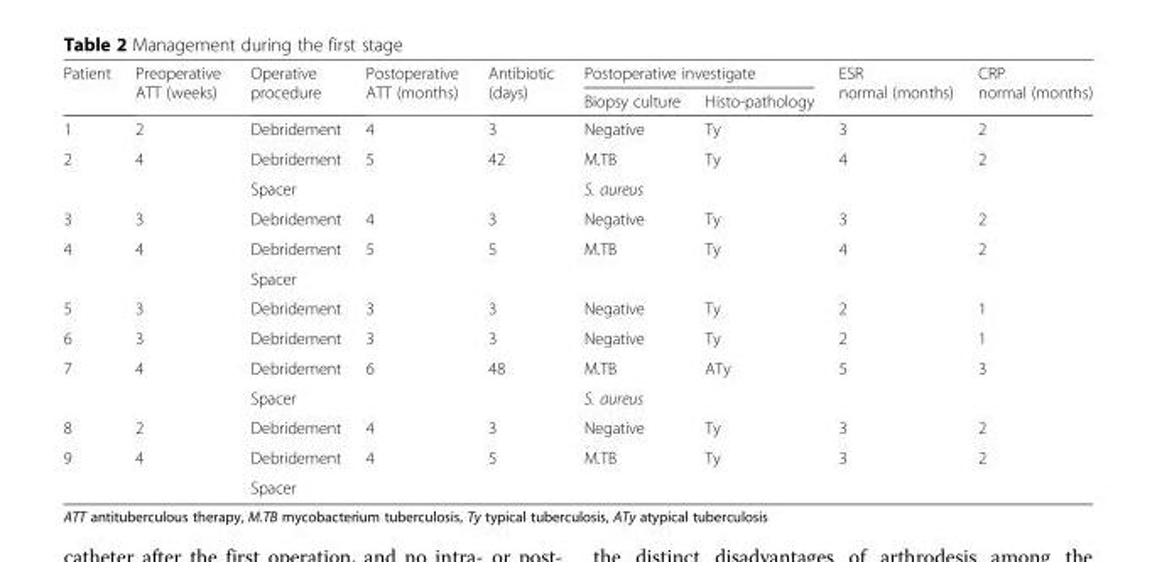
<table><thead><tr><td rowspan="2">Patient</td><td rowspan="2">Preoperative ATT (weeks)</td><td rowspan="2">Operative procedure</td><td rowspan="2">Postoperative ATT (months)</td><td rowspan="2">Antibiotic (days)</td><td colspan="2">Postoperative investigate</td><td rowspan="2">ESR normal (months)</td><td rowspan="2">CRP normal (months)</td></tr><tr><td>Biopsy culture</td><td>Histo-pathology</td></tr></thead><tbody><tr><td>1</td><td>2</td><td>Debridement</td><td>4</td><td>3</td><td>Negative</td><td>Ty</td><td>3</td><td>2</td></tr><tr><td rowspan="2">2</td><td rowspan="2">4</td><td>Debridement</td><td rowspan="2">5</td><td rowspan="2">42</td><td>M.TB</td><td rowspan="2">Ty</td><td rowspan="2">4</td><td rowspan="2">2</td></tr><tr><td>Spacer</td><td>S. aureus</td></tr><tr><td>3</td><td>3</td><td>Debridement</td><td>4</td><td>3</td><td>Negative</td><td>Ty</td><td>3</td><td>2</td></tr><tr><td rowspan="2">4</td><td rowspan="2">4</td><td>Debridement</td><td rowspan="2">5</td><td rowspan="2">5</td><td rowspan="2">M.TB</td><td rowspan="2">Ty</td><td rowspan="2">4</td><td rowspan="2">2</td></tr><tr><td>Spacer</td></tr><tr><td>5</td><td>3</td><td>Debridement</td><td>3</td><td>3</td><td>Negative</td><td>Ty</td><td>2</td><td>1</td></tr><tr><td>6</td><td>3</td><td>Debridement</td><td>3</td><td>3</td><td>Negative</td><td>Ty</td><td>2</td><td>1</td></tr><tr><td rowspan="2">7</td><td rowspan="2">4</td><td>Debridement</td><td rowspan="2">6</td><td rowspan="2">48</td><td>M.TB</td><td rowspan="2">ATy</td><td rowspan="2">5</td><td rowspan="2">3</td></tr><tr><td>Spacer</td><td>S. aureus</td></tr><tr><td>8</td><td>2</td><td>Debridement</td><td>4</td><td>3</td><td>Negative</td><td>Ty</td><td>3</td><td>2</td></tr><tr><td rowspan="2">9</td><td rowspan="2">4</td><td>Debridement</td><td rowspan="2">4</td><td rowspan="2">5</td><td rowspan="2">M.TB</td><td rowspan="2">Ty</td><td rowspan="2">3</td><td rowspan="2">2</td></tr><tr><td>Spacer</td></tr></tbody></table>